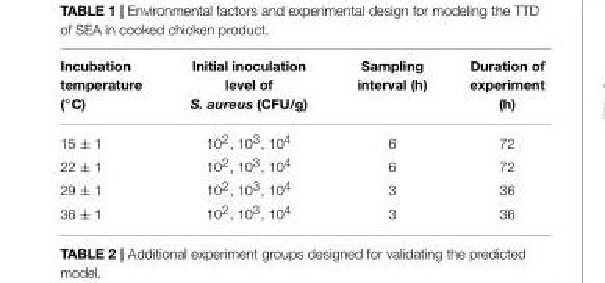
<table><thead><tr><td>Incubation temperature (◦C)</td><td>Initial inoculation level of S. aureus (CFU/g)</td><td>Sampling interval (h)</td><td>Duration of experiment (h)</td></tr></thead><tbody><tr><td>15 ± 1</td><td>10<sup>2</sup>, 10<sup>3</sup>, 10<sup>4</sup></td><td>6</td><td>72</td></tr><tr><td>22 ± 1</td><td>10<sup>2</sup>, 10<sup>3</sup>, 10<sup>4</sup></td><td>6</td><td>72</td></tr><tr><td>29 ± 1</td><td>10<sup>2</sup>, 10<sup>3</sup>, 10<sup>4</sup></td><td>3</td><td>36</td></tr><tr><td>36 ± 1</td><td>10<sup>2</sup>, 10<sup>3</sup>, 10<sup>4</sup></td><td>3</td><td>36</td></tr></tbody></table>